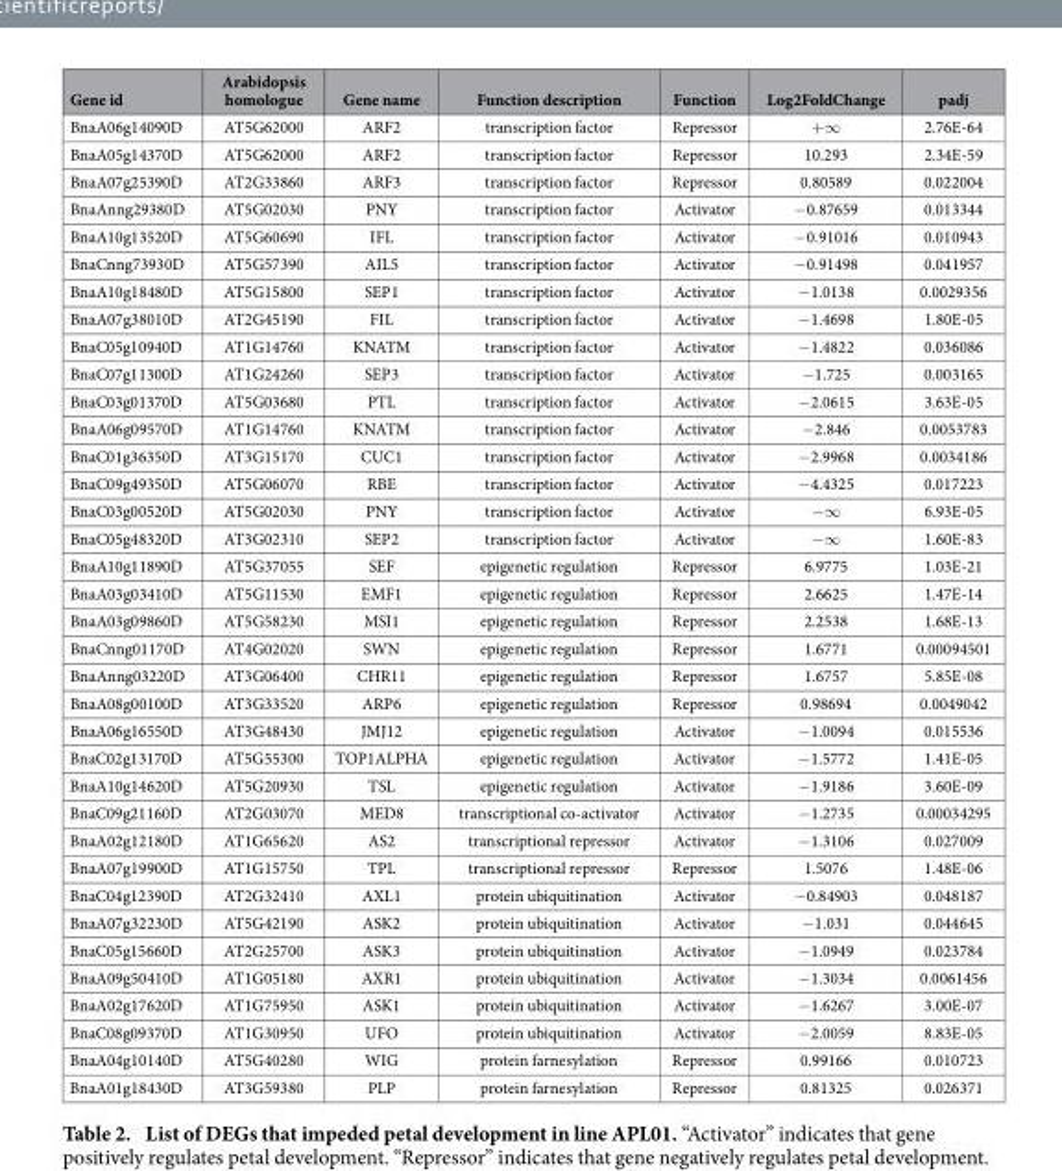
<table><thead><tr><td>Gene id</td><td>Arabidopsis homologue</td><td>Gene name</td><td>Function description</td><td>Function</td><td>Log2FoldChange</td><td>padj</td></tr></thead><tbody><tr><td>BnaA06g14090D</td><td>AT5G62000</td><td>ARF2</td><td>transcription factor</td><td>Repressor</td><td>+ ∞</td><td>2.76E-64</td></tr><tr><td>BnaA05g14370D</td><td>AT5G62000</td><td>ARF2</td><td>transcription factor</td><td>Repressor</td><td>10.293</td><td>2.34E-59</td></tr><tr><td>BnaA07g25390D</td><td>AT2G33860</td><td>ARF3</td><td>transcription factor</td><td>Repressor</td><td>0.80589</td><td>0.022004</td></tr><tr><td>BnaAnng29380D</td><td>AT5G02030</td><td>PNY</td><td>transcription factor</td><td>Activator</td><td>− 0.87659</td><td>0.013344</td></tr><tr><td>BnaA10g13520D</td><td>AT5G60690</td><td>IFL</td><td>transcription factor</td><td>Activator</td><td>− 0.91016</td><td>0.010943</td></tr><tr><td>BnaCnng73930D</td><td>AT5G57390</td><td>AIL5</td><td>transcription factor</td><td>Activator</td><td>− 0.91498</td><td>0.041957</td></tr><tr><td>BnaA10g18480D</td><td>AT5G15800</td><td>SEP1</td><td>transcription factor</td><td>Activator</td><td>− 1.0138</td><td>0.0029356</td></tr><tr><td>BnaA07g38010D</td><td>AT2G45190</td><td>FIL</td><td>transcription factor</td><td>Activator</td><td>− 1.4698</td><td>1.80E-05</td></tr><tr><td>BnaC05g10940D</td><td>AT1G14760</td><td>KNATM</td><td>transcription factor</td><td>Activator</td><td>− 1.4822</td><td>0.036086</td></tr><tr><td>BnaC07g11300D</td><td>AT1G24260</td><td>SEP3</td><td>transcription factor</td><td>Activator</td><td>− 1.725</td><td>0.003165</td></tr><tr><td>BnaC03g01370D</td><td>AT5G03680</td><td>PTL</td><td>transcription factor</td><td>Activator</td><td>− 2.0615</td><td>3.63E-05</td></tr><tr><td>BnaA06g09570D</td><td>AT1G14760</td><td>KNATM</td><td>transcription factor</td><td>Activator</td><td>− 2.846</td><td>0.0053783</td></tr><tr><td>BnaC01g36350D</td><td>AT3G15170</td><td>CUC1</td><td>transcription factor</td><td>Activator</td><td>− 2.9968</td><td>0.0034186</td></tr><tr><td>BnaC09g49350D</td><td>AT5G06070</td><td>RBE</td><td>transcription factor</td><td>Activator</td><td>− 4.4325</td><td>0.017223</td></tr><tr><td>BnaC03g00520D</td><td>AT5G02030</td><td>PNY</td><td>transcription factor</td><td>Activator</td><td>− ∞</td><td>6.93E-05</td></tr><tr><td>BnaC05g48320D</td><td>AT3G02310</td><td>SEP2</td><td>transcription factor</td><td>Activator</td><td>− ∞</td><td>1.60E-83</td></tr><tr><td>BnaA10g11890D</td><td>AT5G37055</td><td>SEF</td><td>epigenetic regulation</td><td>Repressor</td><td>6.9775</td><td>1.03E-21</td></tr><tr><td>BnaA03g03410D</td><td>AT5G11530</td><td>EMF1</td><td>epigenetic regulation</td><td>Repressor</td><td>2.6625</td><td>1.47E-14</td></tr><tr><td>BnaA03g09860D</td><td>AT5G58230</td><td>MSI1</td><td>epigenetic regulation</td><td>Repressor</td><td>2.2538</td><td>1.68E-13</td></tr><tr><td>BnaCnng01170D</td><td>AT4G02020</td><td>SWN</td><td>epigenetic regulation</td><td>Repressor</td><td>1.6771</td><td>0.00094501</td></tr><tr><td>BnaAnng03220D</td><td>AT3G06400</td><td>CHR11</td><td>epigenetic regulation</td><td>Repressor</td><td>1.6757</td><td>5.85E-08</td></tr><tr><td>BnaA08g00100D</td><td>AT3G33520</td><td>ARP6</td><td>epigenetic regulation</td><td>Repressor</td><td>0.98694</td><td>0.0049042</td></tr><tr><td>BnaA06g16550D</td><td>AT3G48430</td><td>JMJ12</td><td>epigenetic regulation</td><td>Activator</td><td>− 1.0094</td><td>0.015536</td></tr><tr><td>BnaC02g13170D</td><td>AT5G55300</td><td>TOP1ALPHA</td><td>epigenetic regulation</td><td>Activator</td><td>− 1.5772</td><td>1.41E-05</td></tr><tr><td>BnaA10g14620D</td><td>AT5G20930</td><td>TSL</td><td>epigenetic regulation</td><td>Activator</td><td>− 1.9186</td><td>3.60E-09</td></tr><tr><td>BnaC09g21160D</td><td>AT2G03070</td><td>MED8</td><td>transcriptional co-activator</td><td>Activator</td><td>− 1.2735</td><td>0.00034295</td></tr><tr><td>BnaA02g12180D</td><td>AT1G65620</td><td>AS2</td><td>transcriptional repressor</td><td>Activator</td><td>− 1.3106</td><td>0.027009</td></tr><tr><td>BnaA07g19900D</td><td>AT1G15750</td><td>TPL</td><td>transcriptional repressor</td><td>Repressor</td><td>1.5076</td><td>1.48E-06</td></tr><tr><td>BnaC04g12390D</td><td>AT2G32410</td><td>AXL1</td><td>protein ubiquitination</td><td>Activator</td><td>− 0.84903</td><td>0.048187</td></tr><tr><td>BnaA07g32230D</td><td>AT5G42190</td><td>ASK2</td><td>protein ubiquitination</td><td>Activator</td><td>− 1.031</td><td>0.044645</td></tr><tr><td>BnaC05g15660D</td><td>AT2G25700</td><td>ASK3</td><td>protein ubiquitination</td><td>Activator</td><td>− 1.0949</td><td>0.023784</td></tr><tr><td>BnaA09g50410D</td><td>AT1G05180</td><td>AXR1</td><td>protein ubiquitination</td><td>Activator</td><td>− 1.3034</td><td>0.0061456</td></tr><tr><td>BnaA02g17620D</td><td>AT1G75950</td><td>ASK1</td><td>protein ubiquitination</td><td>Activator</td><td>− 1.6267</td><td>3.00E-07</td></tr><tr><td>BnaC08g09370D</td><td>AT1G30950</td><td>UFO</td><td>protein ubiquitination</td><td>Activator</td><td>− 2.0059</td><td>8.83E-05</td></tr><tr><td>BnaA04g10140D</td><td>AT5G40280</td><td>WIG</td><td>protein farnesylation</td><td>Repressor</td><td>0.99166</td><td>0.010723</td></tr><tr><td>BnaA01g18430D</td><td>AT3G59380</td><td>PLP</td><td>protein farnesylation</td><td>Repressor</td><td>0.81325</td><td>0.026371</td></tr></tbody></table>